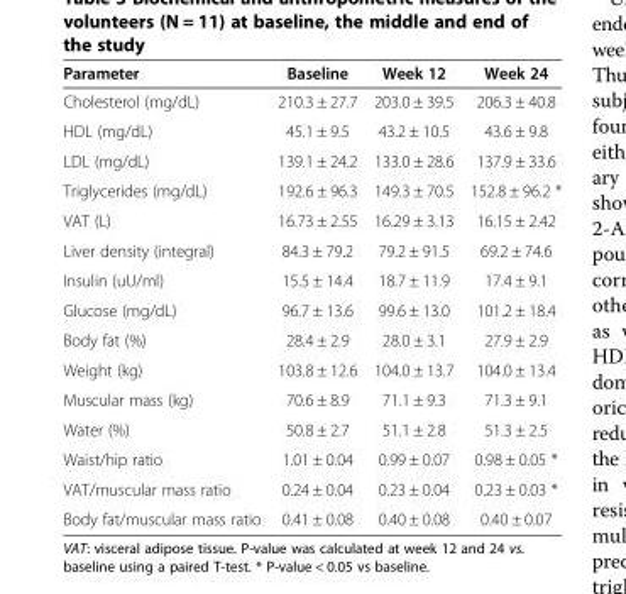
<table><thead><tr><td>Parameter</td><td>Baseline</td><td>Week 12</td><td>Week 24</td></tr></thead><tbody><tr><td>Cholesterol (mg/dL)</td><td>210.3 ± 27.7</td><td>203.0 ± 39.5</td><td>206.3 ± 40.8</td></tr><tr><td>HDL (mg/dL)</td><td>45.1 ± 9.5</td><td>43.2 ± 10.5</td><td>43.6 ± 9.8</td></tr><tr><td>LDL (mg/dL)</td><td>139.1 ± 24.2</td><td>133.0 ± 28.6</td><td>137.9 ± 33.6</td></tr><tr><td>Triglycerides (mg/dL)</td><td>192.6 ± 96.3</td><td>149.3 ± 70.5</td><td>152.8 ± 96.2 *</td></tr><tr><td>VAT (L)</td><td>16.73 ± 2.55</td><td>16.29 ± 3.13</td><td>16.15 ± 2.42</td></tr><tr><td>Liver density (integral)</td><td>84.3 ± 79.2</td><td>79.2 ± 91.5</td><td>69.2 ± 74.6</td></tr><tr><td>Insulin (uU/ml)</td><td>15.5 ± 14.4</td><td>18.7 ± 11.9</td><td>17.4 ± 9.1</td></tr><tr><td>Glucose (mg/dL)</td><td>96.7 ± 13.6</td><td>99.6 ± 13.0</td><td>101.2 ± 18.4</td></tr><tr><td>Body fat (%)</td><td>28.4 ± 2.9</td><td>28.0 ± 3.1</td><td>27.9 ± 2.9</td></tr><tr><td>Weight (kg)</td><td>103.8 ± 12.6</td><td>104.0 ± 13.7</td><td>104.0 ± 13.4</td></tr><tr><td>Muscular mass (kg)</td><td>70.6 ± 8.9</td><td>71.1 ± 9.3</td><td>71.3 ± 9.1</td></tr><tr><td>Water (%)</td><td>50.8 ± 2.7</td><td>51.1 ± 2.8</td><td>51.3 ± 2.5</td></tr><tr><td>Waist/hip ratio</td><td>1.01 ± 0.04</td><td>0.99 ± 0.07</td><td>0.98 ± 0.05 *</td></tr><tr><td>VAT/muscular mass ratio</td><td>0.24 ± 0.04</td><td>0.23 ± 0.04</td><td>0.23 ± 0.03 *</td></tr><tr><td>Body fat/muscular mass ratio</td><td>0.41 ± 0.08</td><td>0.40 ± 0.08</td><td>0.40 ± 0.07</td></tr></tbody></table>